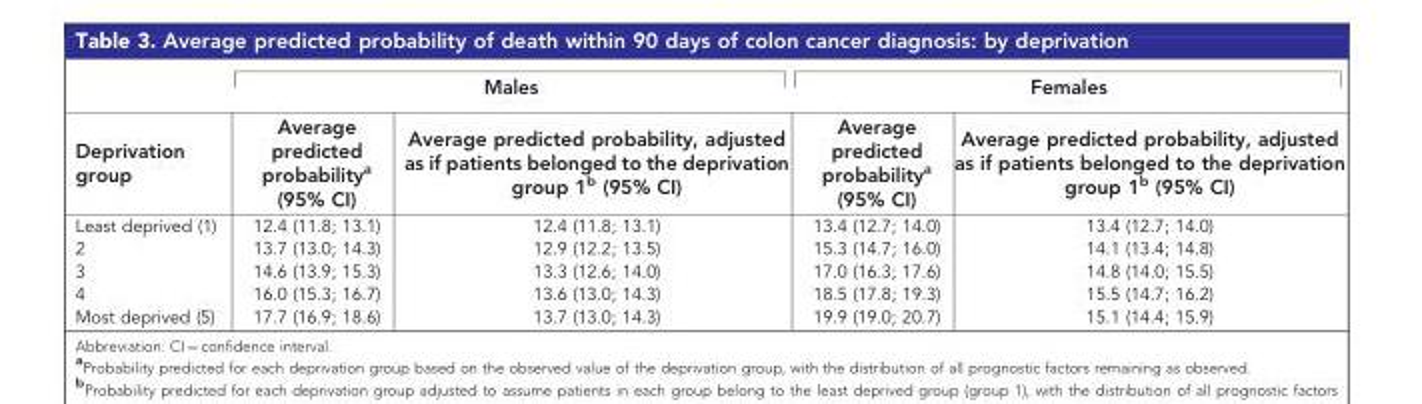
<table><thead><tr><td rowspan="2">Deprivation group</td><td colspan="2">Males</td><td colspan="2">Females</td></tr><tr><td>Average predicted probability<sup>a</sup> (95% CI)</td><td>Average predicted probability, adjusted as if patients belonged to the deprivation group 1<sup>b</sup> (95% CI)</td><td>Average predicted probability<sup>a</sup> (95% CI)</td><td>Average predicted probability, adjusted as if patients belonged to the deprivation group 1<sup>b</sup> (95% CI)</td></tr></thead><tbody><tr><td>Least deprived (1)</td><td>12.4 (11.8; 13.1)</td><td>12.4 (11.8; 13.1)</td><td>13.4 (12.7; 14.0)</td><td>13.4 (12.7; 14.0)</td></tr><tr><td>2</td><td>13.7 (13.0; 14.3)</td><td>12.9 (12.2; 13.5)</td><td>15.3 (14.7; 16.0)</td><td>14.1 (13.4; 14.8)</td></tr><tr><td>3</td><td>14.6 (13.9; 15.3)</td><td>13.3 (12.6; 14.0)</td><td>17.0 (16.3; 17.6)</td><td>14.8 (14.0; 15.5)</td></tr><tr><td>4</td><td>16.0 (15.3; 16.7)</td><td>13.6 (13.0; 14.3)</td><td>18.5 (17.8; 19.3)</td><td>15.5 (14.7; 16.2)</td></tr><tr><td>Most deprived (5)</td><td>17.7 (16.9; 18.6)</td><td>13.7 (13.0; 14.3)</td><td>19.9 (19.0; 20.7)</td><td>15.1 (14.4; 15.9)</td></tr></tbody></table>